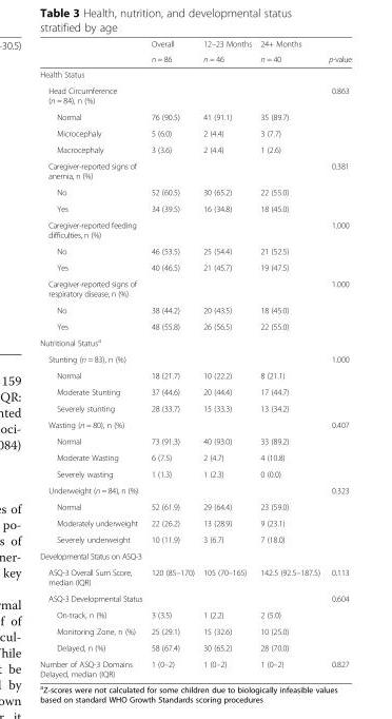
<table><thead><tr><td rowspan="2"></td><td rowspan="2">Overall n = 86</td><td rowspan="2">12–23 Months n = 46</td><td rowspan="2">24+ Months n = 40</td><td rowspan="2">p-value</td></tr><tr></tr></thead><tbody><tr><td colspan="5">Health Status</td></tr><tr><td>Head Circumference (n = 84), n (%)</td><td></td><td></td><td></td><td>0.863</td></tr><tr><td>Normal</td><td>76 (90.5)</td><td>41 (91.1)</td><td>35 (89.7)</td><td></td></tr><tr><td>Microcephaly</td><td>5 (6.0)</td><td>2 (4.4)</td><td>3 (7.7)</td><td></td></tr><tr><td>Macrocephaly</td><td>3 (3.6)</td><td>2 (4.4)</td><td>1 (2.6)</td><td></td></tr><tr><td>Caregiver-reported signs of anemia, n (%)</td><td></td><td></td><td></td><td>0.381</td></tr><tr><td>No</td><td>52 (60.5)</td><td>30 (65.2)</td><td>22 (55.0)</td><td></td></tr><tr><td>Yes</td><td>34 (39.5)</td><td>16 (34.8)</td><td>18 (45.0)</td><td></td></tr><tr><td>Caregiver-reported feeding difficulties, n (%)</td><td></td><td></td><td></td><td>1.000</td></tr><tr><td>No</td><td>46 (53.5)</td><td>25 (54.4)</td><td>21 (52.5)</td><td></td></tr><tr><td>Yes</td><td>40 (46.5)</td><td>21 (45.7)</td><td>19 (47.5)</td><td></td></tr><tr><td>Caregiver-reported signs of respiratory disease, n (%)</td><td></td><td></td><td></td><td>1.000</td></tr><tr><td>No</td><td>38 (44.2)</td><td>20 (43.5)</td><td>18 (45.0)</td><td></td></tr><tr><td>Yes</td><td>48 (55.8)</td><td>26 (56.5)</td><td>22 (55.0)</td><td></td></tr><tr><td colspan="5">Nutritional Status<sup>a</sup></td></tr><tr><td>Stunting (n = 83), n (%)</td><td></td><td></td><td></td><td>1.000</td></tr><tr><td>Normal</td><td>18 (21.7)</td><td>10 (22.2)</td><td>8 (21.1)</td><td></td></tr><tr><td>Moderate Stunting</td><td>37 (44.6)</td><td>20 (44.4)</td><td>17 (44.7)</td><td></td></tr><tr><td>Severely stunting</td><td>28 (33.7)</td><td>15 (33.3)</td><td>13 (34.2)</td><td></td></tr><tr><td>Wasting (n = 80), n (%)</td><td></td><td></td><td></td><td>0.407</td></tr><tr><td>Normal</td><td>73 (91.3)</td><td>40 (93.0)</td><td>33 (89.2)</td><td></td></tr><tr><td>Moderate Wasting</td><td>6 (7.5)</td><td>2 (4.7)</td><td>4 (10.8)</td><td></td></tr><tr><td>Severely wasting</td><td>1 (1.3)</td><td>1 (2.3)</td><td>0 (0.0)</td><td></td></tr><tr><td>Underweight (n = 84), n (%)</td><td></td><td></td><td></td><td>0.323</td></tr><tr><td>Normal</td><td>52 (61.9)</td><td>29 (64.4)</td><td>23 (59.0)</td><td></td></tr><tr><td>Moderately underweight</td><td>22 (26.2)</td><td>13 (28.9)</td><td>9 (23.1)</td><td></td></tr><tr><td>Severely underweight</td><td>10 (11.9)</td><td>3 (6.7)</td><td>7 (18.0)</td><td></td></tr><tr><td colspan="5">Developmental Status on ASQ-3</td></tr><tr><td>ASQ-3 Overall Sum Score, median (IQR)</td><td>120 (85–170)</td><td>105 (70–165)</td><td>142.5 (92.5–187.5)</td><td>0.113</td></tr><tr><td>ASQ-3 Developmental Status</td><td></td><td></td><td></td><td>0.604</td></tr><tr><td>On-track, n (%)</td><td>3 (3.5)</td><td>1 (2.2)</td><td>2 (5.0)</td><td></td></tr><tr><td>Monitoring Zone, n (%)</td><td>25 (29.1)</td><td>15 (32.6)</td><td>10 (25.0)</td><td></td></tr><tr><td>Delayed, n (%)</td><td>58 (67.4)</td><td>30 (65.2)</td><td>28 (70.0)</td><td></td></tr><tr><td>Number of ASQ-3 Domains Delayed, median (IQR)</td><td>1 (0–2)</td><td>1 (0–2)</td><td>1 (0–2)</td><td>0.827</td></tr></tbody></table>